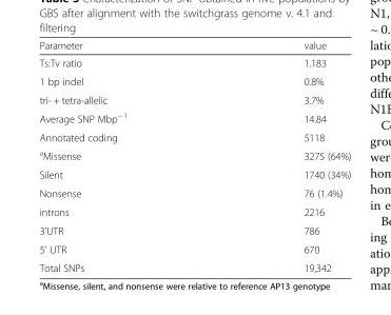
<table><thead><tr><td>Parameter</td><td>value</td></tr></thead><tbody><tr><td>Ts:Tv ratio</td><td>1.183</td></tr><tr><td>1 bp indel</td><td>0.8%</td></tr><tr><td>tri- + tetra-allelic</td><td>3.7%</td></tr><tr><td>Average SNP Mbp<sup>− 1</sup></td><td>14.84</td></tr><tr><td>Annotated coding</td><td>5118</td></tr><tr><td><sup>a</sup>Missense</td><td>3275 (64%)</td></tr><tr><td>Silent</td><td>1740 (34%)</td></tr><tr><td>Nonsense</td><td>76 (1.4%)</td></tr><tr><td>introns</td><td>2216</td></tr><tr><td>3’UTR</td><td>786</td></tr><tr><td>5’ UTR</td><td>670</td></tr><tr><td>Total SNPs</td><td>19,342</td></tr></tbody></table>